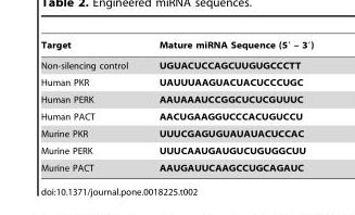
<table><thead><tr><td>Target</td><td>Mature miRNA Sequence (5′ – 3′)</td></tr></thead><tbody><tr><td>Non-silencing control</td><td>UGUACUCCAGCUUGUGCCCTT</td></tr><tr><td>Human PKR</td><td>UAUUUAAGUACUACUCCCUGC</td></tr><tr><td>Human PERK</td><td>AAUAAAUCCGGCUCUCGUUUC</td></tr><tr><td>Human PACT</td><td>AACUGAAGGUCCCACUGUCCU</td></tr><tr><td>Murine PKR</td><td>UUUCGAGUGUAUAUACUCCAC</td></tr><tr><td>Murine PERK</td><td>UUUCAAUGAUGUCUGUGGCUU</td></tr><tr><td>Murine PACT</td><td>AAUGAUUCAAGCCUGCAGAUC</td></tr></tbody></table>